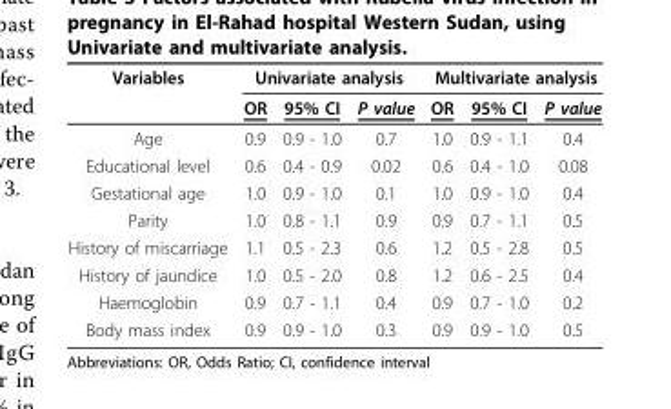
<table><thead><tr><td rowspan="2">Variables</td><td colspan="3">Univariate analysis</td><td colspan="3">Multivariate analysis</td></tr><tr><td>OR</td><td>95% CI</td><td>P value</td><td>OR</td><td>95% CI</td><td>P value</td></tr></thead><tbody><tr><td>Age</td><td>0.9</td><td>0.9 - 1.0</td><td>0.7</td><td>1.0</td><td>0.9 - 1.1</td><td>0.4</td></tr><tr><td>Educational level</td><td>0.6</td><td>0.4 - 0.9</td><td>0.02</td><td>0.6</td><td>0.4 - 1.0</td><td>0.08</td></tr><tr><td>Gestational age</td><td>1.0</td><td>0.9 - 1.0</td><td>0.1</td><td>1.0</td><td>0.9 - 1.0</td><td>0.4</td></tr><tr><td>Parity</td><td>1.0</td><td>0.8 - 1.1</td><td>0.9</td><td>0.9</td><td>0.7 - 1.1</td><td>0.5</td></tr><tr><td>History of miscarriage</td><td>1.1</td><td>0.5 - 2.3</td><td>0.6</td><td>1.2</td><td>0.5 - 2.8</td><td>0.5</td></tr><tr><td>History of jaundice</td><td>1.0</td><td>0.5 - 2.0</td><td>0.8</td><td>1.2</td><td>0.6 - 2.5</td><td>0.4</td></tr><tr><td>Haemoglobin</td><td>0.9</td><td>0.7 - 1.1</td><td>0.4</td><td>0.9</td><td>0.7 - 1.0</td><td>0.2</td></tr><tr><td>Body mass index</td><td>0.9</td><td>0.9 - 1.0</td><td>0.3</td><td>0.9</td><td>0.9 - 1.0</td><td>0.5</td></tr></tbody></table>